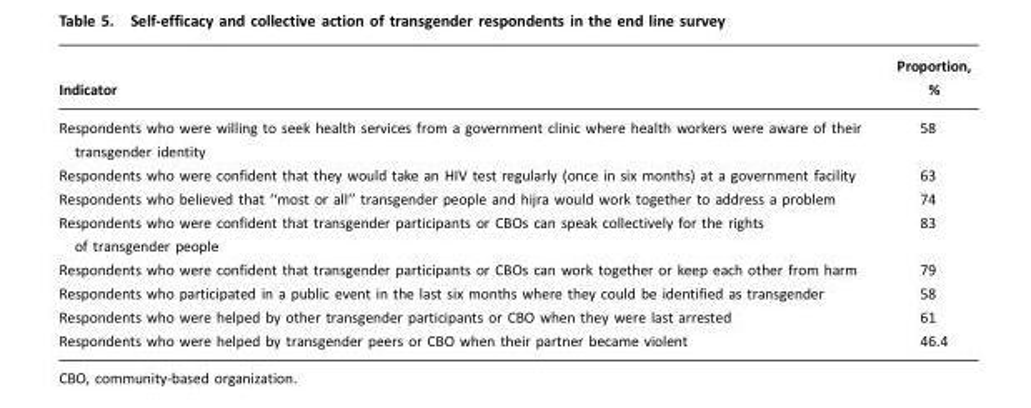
<table><thead><tr><td>Indicator</td><td>Proportion, %</td></tr></thead><tbody><tr><td>Respondents who were willing to seek health services from a government clinic where health workers were aware of their transgender identity</td><td>58</td></tr><tr><td>Respondents who were confident that they would take an HIV test regularly (once in six months) at a government facility</td><td>63</td></tr><tr><td>Respondents who believed that ‘‘most or all’’ transgender people and hijra would work together to address a problem</td><td>74</td></tr><tr><td>Respondents who were confident that transgender participants or CBOs can speak collectively for the rights of transgender people</td><td>83</td></tr><tr><td>Respondents who were confident that transgender participants or CBOs can work together or keep each other from harm</td><td>79</td></tr><tr><td>Respondents who participated in a public event in the last six months where they could be identified as transgender</td><td>58</td></tr><tr><td>Respondents who were helped by other transgender participants or CBO when they were last arrested</td><td>61</td></tr><tr><td>Respondents who were helped by transgender peers or CBO when their partner became violent</td><td>46.4</td></tr></tbody></table>